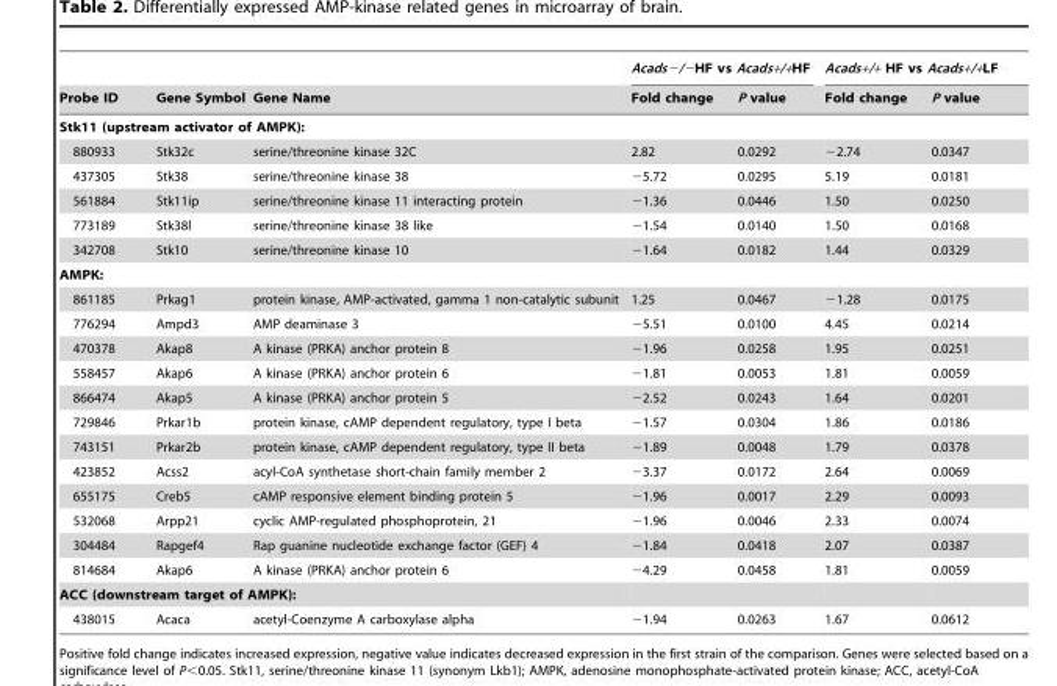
<table><thead><tr><td rowspan="2">Probe ID</td><td rowspan="2">Gene Symbol</td><td rowspan="2">Gene Name</td><td colspan="2">Acads−/−HF vs Acads+/+HF</td><td colspan="2">Acads+/+ HF vs Acads+/+LF</td></tr><tr><td>Fold change</td><td>P value</td><td>Fold change</td><td>P value</td></tr></thead><tbody><tr><td colspan="7">Stk11 (upstream activator of AMPK):</td></tr><tr><td>880933</td><td>Stk32c</td><td>serine/threonine kinase 32C</td><td>2.82</td><td>0.0292</td><td>−2.74</td><td>0.0347</td></tr><tr><td>437305</td><td>Stk38</td><td>serine/threonine kinase 38</td><td>−5.72</td><td>0.0295</td><td>5.19</td><td>0.0181</td></tr><tr><td>561884</td><td>Stk11ip</td><td>serine/threonine kinase 11 interacting protein</td><td>−1.36</td><td>0.0446</td><td>1.50</td><td>0.0250</td></tr><tr><td>773189</td><td>Stk38l</td><td>serine/threonine kinase 38 like</td><td>−1.54</td><td>0.0140</td><td>1.50</td><td>0.0168</td></tr><tr><td>342708</td><td>Stk10</td><td>serine/threonine kinase 10</td><td>−1.64</td><td>0.0182</td><td>1.44</td><td>0.0329</td></tr><tr><td colspan="7">AMPK:</td></tr><tr><td>861185</td><td>Prkag1</td><td>protein kinase, AMP-activated, gamma 1 non-catalytic subunit</td><td>1.25</td><td>0.0467</td><td>−1.28</td><td>0.0175</td></tr><tr><td>776294</td><td>Ampd3</td><td>AMP deaminase 3</td><td>−5.51</td><td>0.0100</td><td>4.45</td><td>0.0214</td></tr><tr><td>470378</td><td>Akap8</td><td>A kinase (PRKA) anchor protein 8</td><td>−1.96</td><td>0.0258</td><td>1.95</td><td>0.0251</td></tr><tr><td>558457</td><td>Akap6</td><td>A kinase (PRKA) anchor protein 6</td><td>−1.81</td><td>0.0053</td><td>1.81</td><td>0.0059</td></tr><tr><td>866474</td><td>Akap5</td><td>A kinase (PRKA) anchor protein 5</td><td>−2.52</td><td>0.0243</td><td>1.64</td><td>0.0201</td></tr><tr><td>729846</td><td>Prkar1b</td><td>protein kinase, cAMP dependent regulatory, type I beta</td><td>−1.57</td><td>0.0304</td><td>1.86</td><td>0.0186</td></tr><tr><td>743151</td><td>Prkar2b</td><td>protein kinase, cAMP dependent regulatory, type II beta</td><td>−1.89</td><td>0.0048</td><td>1.79</td><td>0.0378</td></tr><tr><td>423852</td><td>Acss2</td><td>acyl-CoA synthetase short-chain family member 2</td><td>−3.37</td><td>0.0172</td><td>2.64</td><td>0.0069</td></tr><tr><td>655175</td><td>Creb5</td><td>cAMP responsive element binding protein 5</td><td>−1.96</td><td>0.0017</td><td>2.29</td><td>0.0093</td></tr><tr><td>532068</td><td>Arpp21</td><td>cyclic AMP-regulated phosphoprotein, 21</td><td>−1.96</td><td>0.0046</td><td>2.33</td><td>0.0074</td></tr><tr><td>304484</td><td>Rapgef4</td><td>Rap guanine nucleotide exchange factor (GEF) 4</td><td>−1.84</td><td>0.0418</td><td>2.07</td><td>0.0387</td></tr><tr><td>814684</td><td>Akap6</td><td>A kinase (PRKA) anchor protein 6</td><td>−4.29</td><td>0.0458</td><td>1.81</td><td>0.0059</td></tr><tr><td colspan="7">ACC (downstream target of AMPK):</td></tr><tr><td>438015</td><td>Acaca</td><td>acetyl-Coenzyme A carboxylase alpha</td><td>−1.94</td><td>0.0263</td><td>1.67</td><td>0.0612</td></tr></tbody></table>